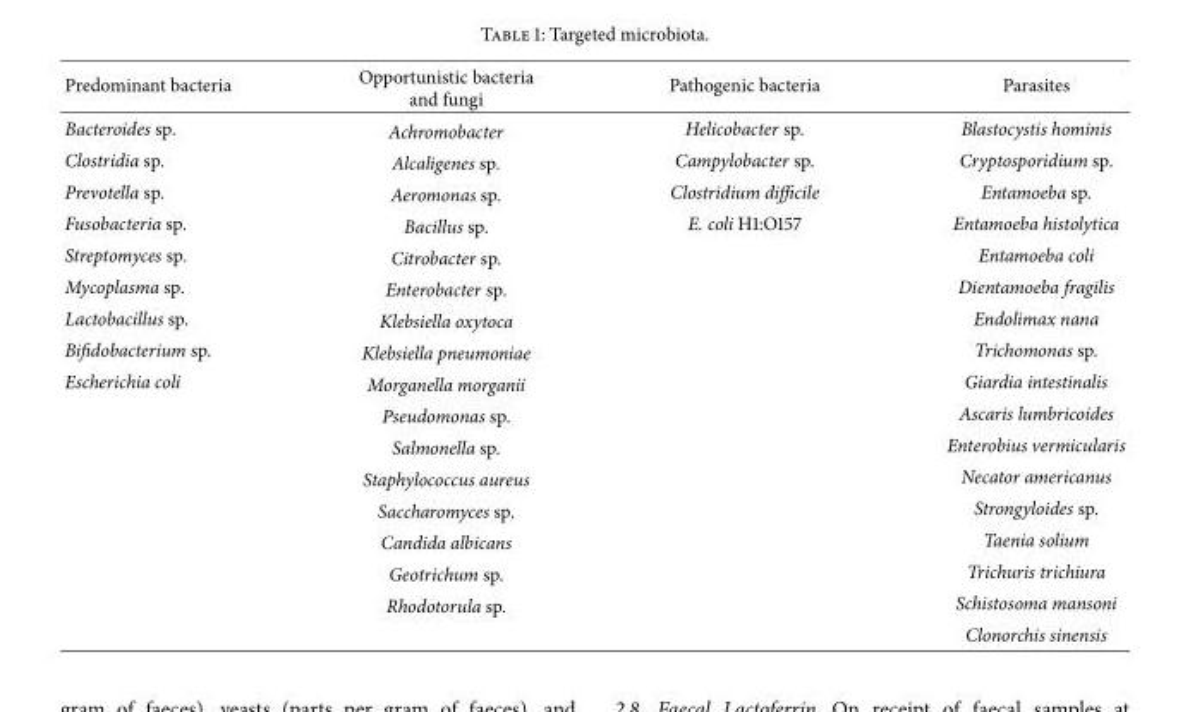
<table><thead><tr><td>Predominant bacteria</td><td>Opportunistic bacteria and fungi</td><td>Pathogenic bacteria</td><td>Parasites</td></tr></thead><tbody><tr><td>Bacteroides sp.</td><td>Achromobacter</td><td>Helicobacter sp.</td><td>Blastocystis hominis</td></tr><tr><td>Clostridia sp.</td><td>Alcaligenes sp.</td><td>Campylobacter sp.</td><td>Cryptosporidium sp.</td></tr><tr><td>Prevotella sp.</td><td>Aeromonas sp.</td><td>Clostridium difficile</td><td>Entamoeba sp.</td></tr><tr><td>Fusobacteria sp.</td><td>Bacillus sp.</td><td>E. coli H1:O157</td><td>Entamoeba histolytica</td></tr><tr><td>Streptomyces sp.</td><td>Citrobacter sp.</td><td></td><td>Entamoeba coli</td></tr><tr><td>Mycoplasma sp.</td><td>Enterobacter sp.</td><td></td><td>Dientamoeba fragilis</td></tr><tr><td>Lactobacillus sp.</td><td>Klebsiella oxytoca</td><td></td><td>Endolimax nana</td></tr><tr><td>Bifidobacterium sp.</td><td>Klebsiella pneumoniae</td><td></td><td>Trichomonas sp.</td></tr><tr><td rowspan="9">Escherichia coli</td><td>Morganella morganii</td><td></td><td>Giardia intestinalis</td></tr><tr><td>Pseudomonas sp.</td><td></td><td>Ascaris lumbricoides</td></tr><tr><td>Salmonella sp.</td><td></td><td>Enterobius vermicularis</td></tr><tr><td>Staphylococcus aureus</td><td></td><td>Necator americanus</td></tr><tr><td>Saccharomyces sp.</td><td></td><td>Strongyloides sp.</td></tr><tr><td>Candida albicans</td><td></td><td>Taenia solium</td></tr><tr><td>Geotrichum sp.</td><td></td><td>Trichuris trichiura</td></tr><tr><td>Rhodotorula sp.</td><td></td><td>Schistosoma mansoni</td></tr><tr><td></td><td></td><td>Clonorchis sinensis</td></tr></tbody></table>